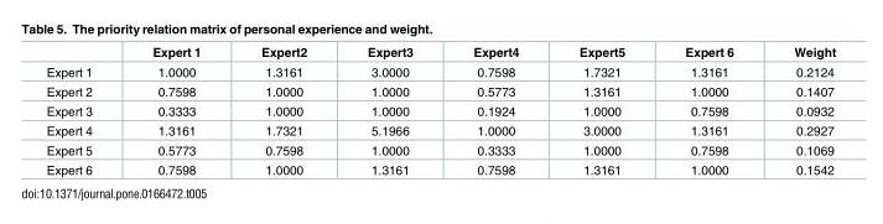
<table><thead><tr><td></td><td>Expert 1</td><td>Expert2</td><td>Expert3</td><td>Expert4</td><td>Expert5</td><td>Expert 6</td><td>Weight</td></tr></thead><tbody><tr><td>Expert 1</td><td>1.0000</td><td>1.3161</td><td>3.0000</td><td>0.7598</td><td>1.7321</td><td>1.3161</td><td>0.2124</td></tr><tr><td>Expert 2</td><td>0.7598</td><td>1.0000</td><td>1.0000</td><td>0.5773</td><td>1.3161</td><td>1.0000</td><td>0.1407</td></tr><tr><td>Expert 3</td><td>0.3333</td><td>1.0000</td><td>1.0000</td><td>0.1924</td><td>1.0000</td><td>0.7598</td><td>0.0932</td></tr><tr><td>Expert 4</td><td>1.3161</td><td>1.7321</td><td>5.1966</td><td>1.0000</td><td>3.0000</td><td>1.3161</td><td>0.2927</td></tr><tr><td>Expert 5</td><td>0.5773</td><td>0.7598</td><td>1.0000</td><td>0.3333</td><td>1.0000</td><td>0.7598</td><td>0.1069</td></tr><tr><td>Expert 6</td><td>0.7598</td><td>1.0000</td><td>1.3161</td><td>0.7598</td><td>1.3161</td><td>1.0000</td><td>0.1542</td></tr></tbody></table>